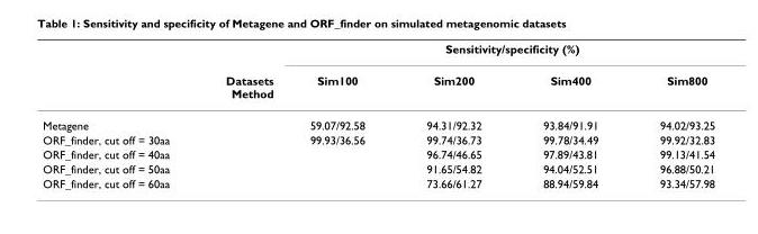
<table><thead><tr><td rowspan="2">Datasets Method</td><td colspan="4">Sensitivity/specificity (%)</td></tr><tr><td>Sim100</td><td>Sim200</td><td>Sim400</td><td>Sim800</td></tr></thead><tbody><tr><td>Metagene</td><td>59.07/92.58</td><td>94.31/92.32</td><td>93.84/91.91</td><td>94.02/93.25</td></tr><tr><td>ORF_finder, cut off = 30aa</td><td>99.93/36.56</td><td>99.74/36.73</td><td>99.78/34.49</td><td>99.92/32.83</td></tr><tr><td>ORF_finder, cut off = 40aa</td><td></td><td>96.74/46.65</td><td>97.89/43.81</td><td>99.13/41.54</td></tr><tr><td>ORF_finder, cut off = 50aa</td><td></td><td>91.65/54.82</td><td>94.04/52.51</td><td>96.88/50.21</td></tr><tr><td>ORF_finder, cut off = 60aa</td><td></td><td>73.66/61.27</td><td>88.94/59.84</td><td>93.34/57.98</td></tr></tbody></table>